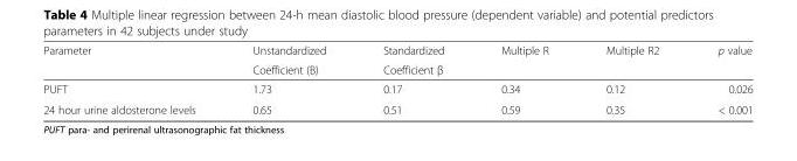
<table><thead><tr><td rowspan="2">Parameter</td><td rowspan="2">Unstandardized Coefficient (B)</td><td rowspan="2">Standardized Coefficient β</td><td rowspan="2">Multiple R</td><td rowspan="2">Multiple R2</td><td rowspan="2">p value</td></tr><tr></tr></thead><tbody><tr><td>PUFT</td><td>1.73</td><td>0.17</td><td>0.34</td><td>0.12</td><td>0.026</td></tr><tr><td>24 hour urine aldosterone levels</td><td>0.65</td><td>0.51</td><td>0.59</td><td>0.35</td><td>&lt; 0.001</td></tr></tbody></table>